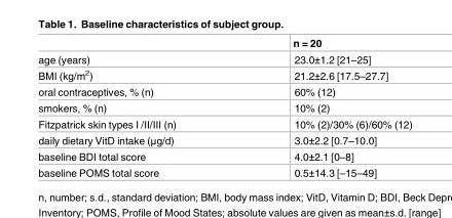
<table><thead><tr><td></td><td>n = 20</td></tr></thead><tbody><tr><td>age (years)</td><td>23.0±1.2 [21–25]</td></tr><tr><td>BMI (kg/m<sup>2</sup>)</td><td>21.2±2.6 [17.5–27.7]</td></tr><tr><td>oral contraceptives, % (n)</td><td>60% (12)</td></tr><tr><td>smokers, % (n)</td><td>10% (2)</td></tr><tr><td>Fitzpatrick skin types I /II/III (n)</td><td>10% (2)/30% (6)/60% (12)</td></tr><tr><td>daily dietary VitD intake (μg/d)</td><td>3.0±2.2 [0.7–10.0]</td></tr><tr><td>baseline BDI total score</td><td>4.0±2.1 [0–8]</td></tr><tr><td>baseline POMS total score</td><td>0.5±14.3 [–15–49]</td></tr></tbody></table>